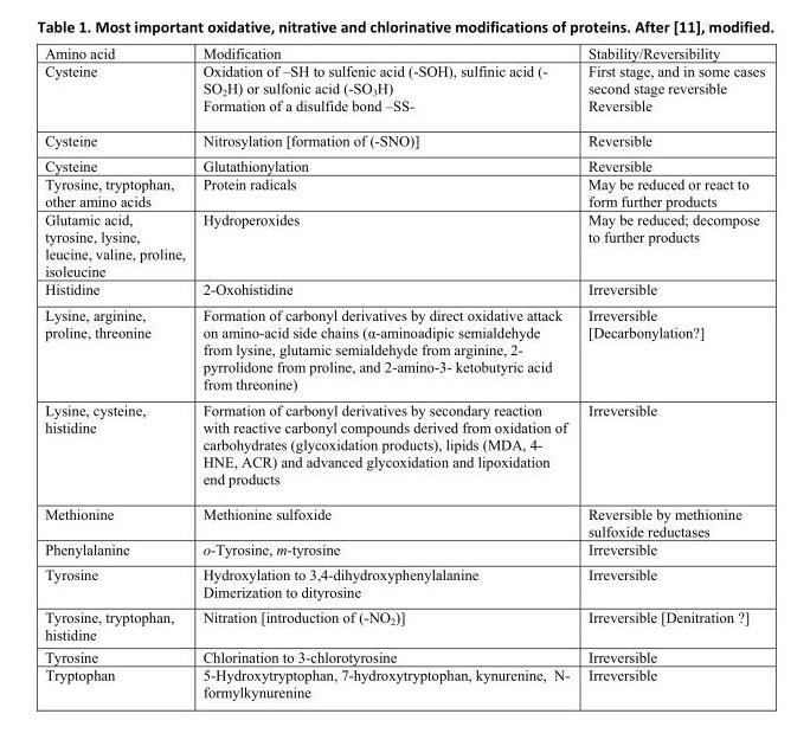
<table><tbody><tr><td>Amino acid</td><td>Modification</td><td>Stability/Reversibility</td></tr><tr><td>Cysteine</td><td>Oxidation of –SH to sulfenic acid (-SOH), sulfinic acid (- SO<sub>2</sub>H) or sulfonic acid (-SO<sub>3</sub>H) Formation of a disulfide bond –SS-</td><td>First stage, and in some cases second stage reversible Reversible</td></tr><tr><td>Cysteine</td><td>Nitrosylation [formation of (-SNO)]</td><td>Reversible</td></tr><tr><td>Cysteine</td><td>Glutathionylation</td><td>Reversible</td></tr><tr><td>Tyrosine, tryptophan, other amino acids</td><td>Protein radicals</td><td>May be reduced or react to form further products</td></tr><tr><td>Glutamic acid, tyrosine, lysine, leucine, valine, proline, isoleucine</td><td>Hydroperoxides</td><td>May be reduced; decompose to further products</td></tr><tr><td>Histidine</td><td>2-Oxohistidine</td><td>Irreversible</td></tr><tr><td>Lysine, arginine, proline, threonine</td><td>Formation of carbonyl derivatives by direct oxidative attack on amino-acid side chains (α-aminoadipic semialdehyde from lysine, glutamic semialdehyde from arginine, 2- pyrrolidone from proline, and 2-amino-3- ketobutyric acid from threonine)</td><td>Irreversible [Decarbonylation?]</td></tr><tr><td>Lysine, cysteine, histidine</td><td>Formation of carbonyl derivatives by secondary reaction with reactive carbonyl compounds derived from oxidation of carbohydrates (glycoxidation products), lipids (MDA, 4- HNE, ACR) and advanced glycoxidation and lipoxidation end products</td><td>Irreversible</td></tr><tr><td>Methionine</td><td>Methionine sulfoxide</td><td>Reversible by methionine sulfoxide reductases</td></tr><tr><td>Phenylalanine</td><td>o-Tyrosine, m-tyrosine</td><td>Irreversible</td></tr><tr><td>Tyrosine</td><td>Hydroxylation to 3,4-dihydroxyphenylalanine Dimerization to dityrosine</td><td>Irreversible</td></tr><tr><td>Tyrosine, tryptophan, histidine</td><td>Nitration [introduction of (-NO<sub>2</sub>)]</td><td>Irreversible [Denitration ?]</td></tr><tr><td>Tyrosine</td><td>Chlorination to 3-chlorotyrosine</td><td>Irreversible</td></tr><tr><td>Tryptophan</td><td>5-Hydroxytryptophan, 7-hydroxytryptophan, kynurenine, N- formylkynurenine</td><td>Irreversible</td></tr></tbody></table>